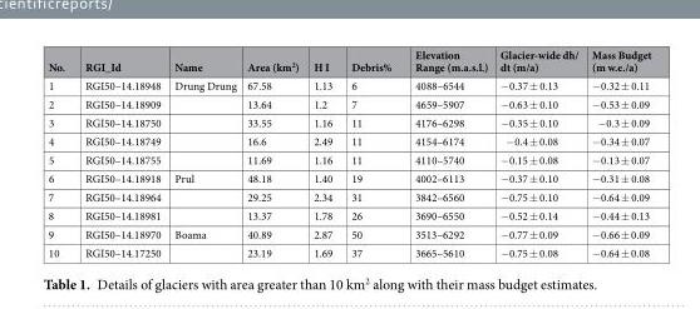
<table><thead><tr><td>No.</td><td>RGI_Id</td><td>Name</td><td>Area (km<sup>2</sup>)</td><td>H I</td><td>Debris%</td><td>Elevation Range (m.a.s.l.)</td><td>Glacier-wide dh/ dt (m/a)</td><td>Mass Budget (m w.e./a)</td></tr></thead><tbody><tr><td>1</td><td>RGI50–14.18948</td><td>Drung Drung</td><td>67.58</td><td>1.13</td><td>6</td><td>4088–6544</td><td>−0.37 ± 0.13</td><td>−0.32 ± 0.11</td></tr><tr><td>2</td><td>RGI50–14.18909</td><td></td><td>13.64</td><td>1.2</td><td>7</td><td>4659–5907</td><td>−0.63 ± 0.10</td><td>−0.53 ± 0.09</td></tr><tr><td>3</td><td>RGI50–14.18750</td><td></td><td>33.55</td><td>1.16</td><td>11</td><td>4176–6298</td><td>−0.35 ± 0.10</td><td>−0.3 ± 0.09</td></tr><tr><td>4</td><td>RGI50–14.18749</td><td></td><td>16.6</td><td>2.49</td><td>11</td><td>4154–6174</td><td>−0.4 ± 0.08</td><td>−0.34 ± 0.07</td></tr><tr><td>5</td><td>RGI50–14.18755</td><td></td><td>11.69</td><td>1.16</td><td>11</td><td>4110–5740</td><td>−0.15 ± 0.08</td><td>−0.13 ± 0.07</td></tr><tr><td>6</td><td>RGI50–14.18918</td><td>Prul</td><td>48.18</td><td>1.40</td><td>19</td><td>4002–6113</td><td>−0.37 ± 0.10</td><td>−0.31 ± 0.08</td></tr><tr><td>7</td><td>RGI50–14.18964</td><td></td><td>29.25</td><td>2.34</td><td>31</td><td>3842–6560</td><td>−0.75 ± 0.10</td><td>−0.64 ± 0.09</td></tr><tr><td>8</td><td>RGI50–14.18981</td><td></td><td>13.37</td><td>1.78</td><td>26</td><td>3690–6550</td><td>−0.52 ± 0.14</td><td>−0.44 ± 0.13</td></tr><tr><td>9</td><td>RGI50–14.18970</td><td>Boama</td><td>40.89</td><td>2.87</td><td>50</td><td>3513–6292</td><td>−0.77 ± 0.09</td><td>−0.66 ± 0.09</td></tr><tr><td>10</td><td>RGI50–14.17250</td><td></td><td>23.19</td><td>1.69</td><td>37</td><td>3665–5610</td><td>−0.75 ± 0.08</td><td>−0.64 ± 0.08</td></tr></tbody></table>